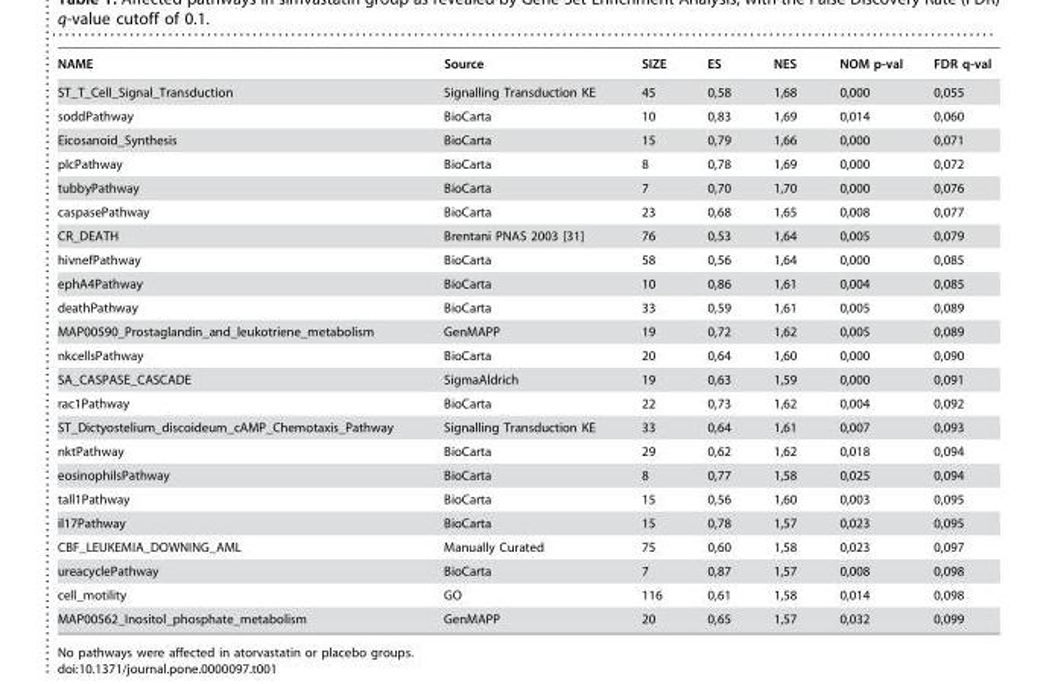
<table><thead><tr><td>NAME</td><td>Source</td><td>SIZE</td><td>ES</td><td>NES</td><td>NOM p-val</td><td>FDR q-val</td></tr></thead><tbody><tr><td>ST_T_Cell_Signal_Transduction</td><td>Signalling Transduction KE</td><td>45</td><td>0,58</td><td>1,68</td><td>0,000</td><td>0,055</td></tr><tr><td>soddPathway</td><td>BioCarta</td><td>10</td><td>0,83</td><td>1,69</td><td>0,014</td><td>0,060</td></tr><tr><td>Eicosanoid_Synthesis</td><td>BioCarta</td><td>15</td><td>0,79</td><td>1,66</td><td>0,000</td><td>0,071</td></tr><tr><td>plcPathway</td><td>BioCarta</td><td>8</td><td>0,78</td><td>1,69</td><td>0,000</td><td>0,072</td></tr><tr><td>tubbyPathway</td><td>BioCarta</td><td>7</td><td>0,70</td><td>1,70</td><td>0,000</td><td>0,076</td></tr><tr><td>caspasePathway</td><td>BioCarta</td><td>23</td><td>0,68</td><td>1,65</td><td>0,008</td><td>0,077</td></tr><tr><td>CR_DEATH</td><td>Brentani PNAS 2003 [31]</td><td>76</td><td>0,53</td><td>1,64</td><td>0,005</td><td>0,079</td></tr><tr><td>hivnefPathway</td><td>BioCarta</td><td>58</td><td>0,56</td><td>1,64</td><td>0,000</td><td>0,085</td></tr><tr><td>ephA4Pathway</td><td>BioCarta</td><td>10</td><td>0,86</td><td>1,61</td><td>0,004</td><td>0,085</td></tr><tr><td>deathPathway</td><td>BioCarta</td><td>33</td><td>0,59</td><td>1,61</td><td>0,005</td><td>0,089</td></tr><tr><td>MAP00590_Prostaglandin_and_leukotriene_metabolism</td><td>GenMAPP</td><td>19</td><td>0,72</td><td>1,62</td><td>0,005</td><td>0,089</td></tr><tr><td>nkcellsPathway</td><td>BioCarta</td><td>20</td><td>0,64</td><td>1,60</td><td>0,000</td><td>0,090</td></tr><tr><td>SA_CASPASE_CASCADE</td><td>SigmaAldrich</td><td>19</td><td>0,63</td><td>1,59</td><td>0,000</td><td>0,091</td></tr><tr><td>rac1Pathway</td><td>BioCarta</td><td>22</td><td>0,73</td><td>1,62</td><td>0,004</td><td>0,092</td></tr><tr><td>ST_Dictyostelium_discoideum_cAMP_Chemotaxis_Pathway</td><td>Signalling Transduction KE</td><td>33</td><td>0,64</td><td>1,61</td><td>0,007</td><td>0,093</td></tr><tr><td>nktPathway</td><td>BioCarta</td><td>29</td><td>0,62</td><td>1,62</td><td>0,018</td><td>0,094</td></tr><tr><td>eosinophilsPathway</td><td>BioCarta</td><td>8</td><td>0,77</td><td>1,58</td><td>0,025</td><td>0,094</td></tr><tr><td>tall1Pathway</td><td>BioCarta</td><td>15</td><td>0,56</td><td>1,60</td><td>0,003</td><td>0,095</td></tr><tr><td>il17Pathway</td><td>BioCarta</td><td>15</td><td>0,78</td><td>1,57</td><td>0,023</td><td>0,095</td></tr><tr><td>CBF_LEUKEMIA_DOWNING_AML</td><td>Manually Curated</td><td>75</td><td>0,60</td><td>1,58</td><td>0,023</td><td>0,097</td></tr><tr><td>ureacyclePathway</td><td>BioCarta</td><td>7</td><td>0,87</td><td>1,57</td><td>0,008</td><td>0,098</td></tr><tr><td>cell_motility</td><td>GO</td><td>116</td><td>0,61</td><td>1,58</td><td>0,014</td><td>0,098</td></tr><tr><td>MAP00562_Inositol_phosphate_metabolism</td><td>GenMAPP</td><td>20</td><td>0,65</td><td>1,57</td><td>0,032</td><td>0,099</td></tr></tbody></table>